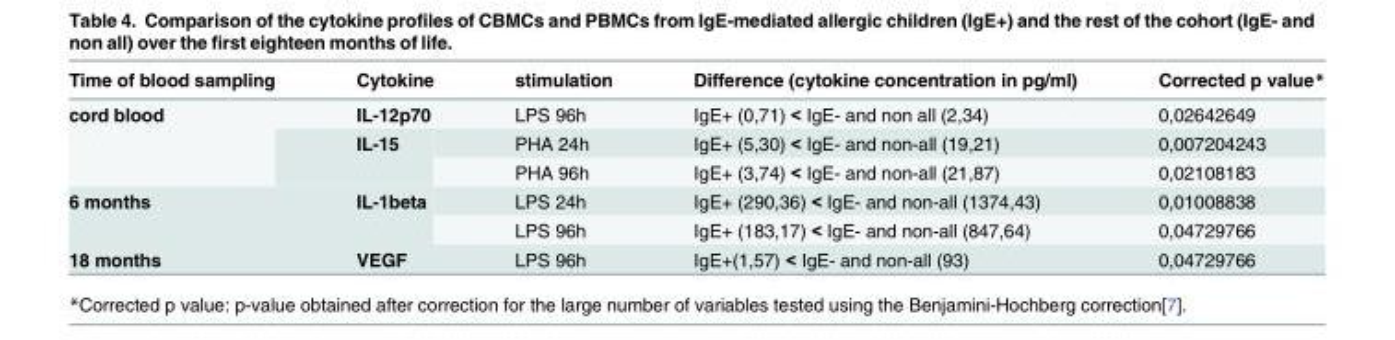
<table><thead><tr><td>Time of blood sampling</td><td>Cytokine</td><td>stimulation</td><td>Difference (cytokine concentration in pg/ml)</td><td>Corrected p value*</td></tr></thead><tbody><tr><td rowspan="3">cord blood</td><td>IL-12p70</td><td>LPS 96h</td><td>IgE+ (0,71) &lt; IgE- and non all (2,34)</td><td>0,02642649</td></tr><tr><td rowspan="2">IL-15</td><td>PHA 24h</td><td>IgE+ (5,30) &lt; IgE- and non-all (19,21)</td><td>0,007204243</td></tr><tr><td>PHA 96h</td><td>IgE+ (3,74) &lt; IgE- and non-all (21,87)</td><td>0,02108183</td></tr><tr><td rowspan="2">6 months</td><td rowspan="2">IL-1beta</td><td>LPS 24h</td><td>IgE+ (290,36) &lt; IgE- and non-all (1374,43)</td><td>0,01008838</td></tr><tr><td>LPS 96h</td><td>IgE+ (183,17) &lt; IgE- and non-all (847,64)</td><td>0,04729766</td></tr><tr><td>18 months</td><td>VEGF</td><td>LPS 96h</td><td>IgE+(1,57) &lt; IgE- and non-all (93)</td><td>0,04729766</td></tr></tbody></table>